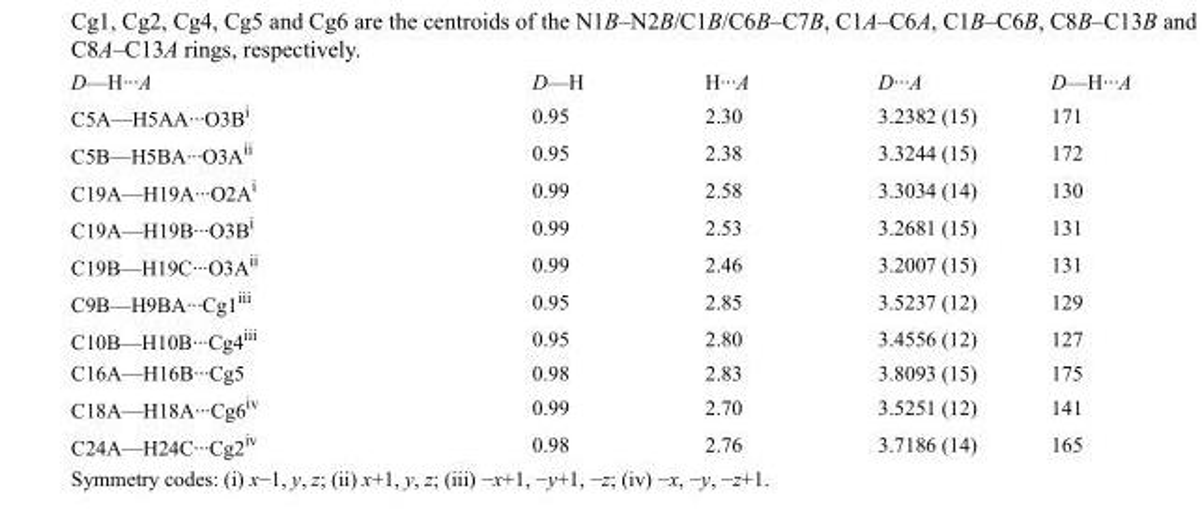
<table><tbody><tr><td>D—H···A</td><td>D—H</td><td>H···A</td><td>D···A</td><td>D—H···A</td></tr><tr><td>C5A—H5AA···O3B<sup>i</sup></td><td>0.95</td><td>2.30</td><td>3.2382 (15)</td><td>171</td></tr><tr><td>C5B—H5BA···O3A<sup>ii</sup></td><td>0.95</td><td>2.38</td><td>3.3244 (15)</td><td>172</td></tr><tr><td>C19A—H19A···O2A<sup>i</sup></td><td>0.99</td><td>2.58</td><td>3.3034 (14)</td><td>130</td></tr><tr><td>C19A—H19B···O3B<sup>i</sup></td><td>0.99</td><td>2.53</td><td>3.2681 (15)</td><td>131</td></tr><tr><td>C19B—H19C···O3A<sup>ii</sup></td><td>0.99</td><td>2.46</td><td>3.2007 (15)</td><td>131</td></tr><tr><td>C9B—H9BA···Cg1<sup>iii</sup></td><td>0.95</td><td>2.85</td><td>3.5237 (12)</td><td>129</td></tr><tr><td>C10B—H10B···Cg4<sup>iii</sup></td><td>0.95</td><td>2.80</td><td>3.4556 (12)</td><td>127</td></tr><tr><td>C16A—H16B···Cg5</td><td>0.98</td><td>2.83</td><td>3.8093 (15)</td><td>175</td></tr><tr><td>C18A—H18A···Cg6<sup>iv</sup></td><td>0.99</td><td>2.70</td><td>3.5251 (12)</td><td>141</td></tr><tr><td>C24A—H24C···Cg2<sup>iv</sup></td><td>0.98</td><td>2.76</td><td>3.7186 (14)</td><td>165</td></tr></tbody></table>